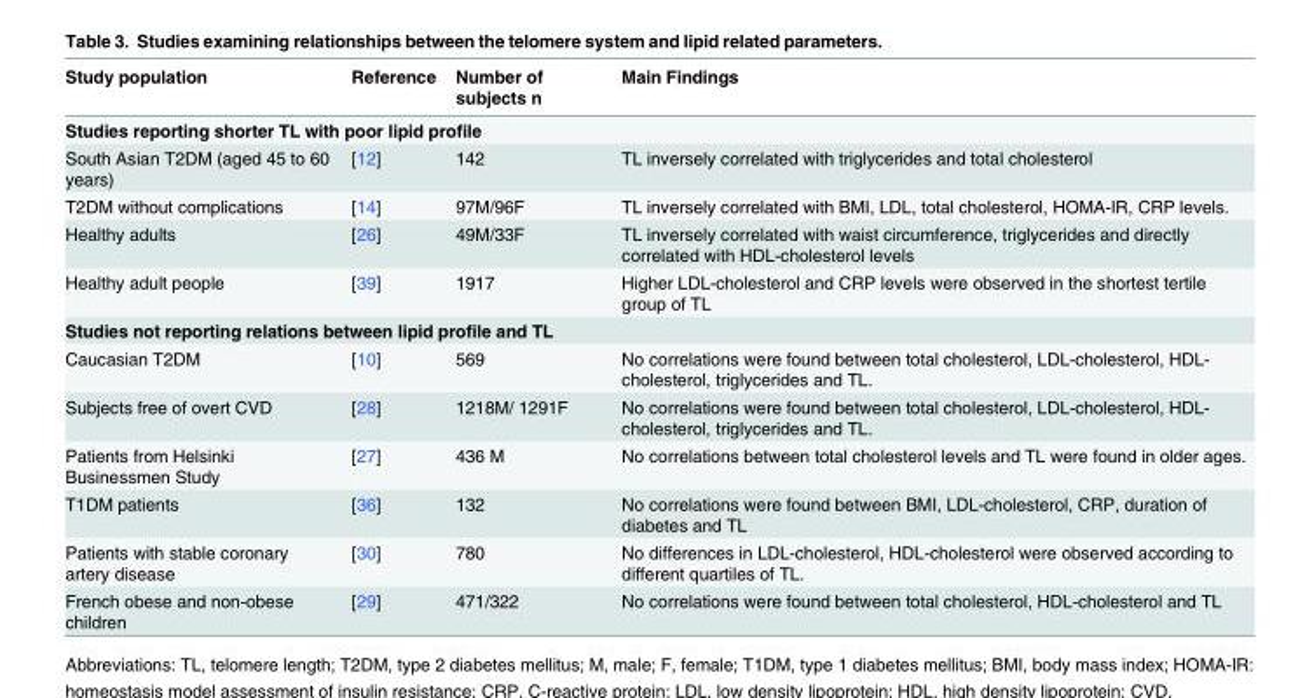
<table><thead><tr><td>Study population</td><td>Reference</td><td>Number of subjects n</td><td>Main Findings</td></tr></thead><tbody><tr><td colspan="4">Studies reporting shorter TL with poor lipid profile</td></tr><tr><td>South Asian T2DM (aged 45 to 60 years)</td><td>[12]</td><td>142</td><td>TL inversely correlated with triglycerides and total cholesterol</td></tr><tr><td>T2DM without complications</td><td>[14]</td><td>97M/96F</td><td>TL inversely correlated with BMI, LDL, total cholesterol, HOMA-IR, CRP levels.</td></tr><tr><td>Healthy adults</td><td>[26]</td><td>49M/33F</td><td>TL inversely correlated with waist circumference, triglycerides and directly correlated with HDL-cholesterol levels</td></tr><tr><td>Healthy adult people</td><td>[39]</td><td>1917</td><td>Higher LDL-cholesterol and CRP levels were observed in the shortest tertile group of TL</td></tr><tr><td colspan="4">Studies not reporting relations between lipid profile and TL</td></tr><tr><td>Caucasian T2DM</td><td>[10]</td><td>569</td><td>No correlations were found between total cholesterol, LDL-cholesterol, HDL- cholesterol, triglycerides and TL.</td></tr><tr><td>Subjects free of overt CVD</td><td>[28]</td><td>1218M/ 1291F</td><td>No correlations were found between total cholesterol, LDL-cholesterol, HDL- cholesterol, triglycerides and TL.</td></tr><tr><td>Patients from Helsinki Businessmen Study</td><td>[27]</td><td>436 M</td><td>No correlations between total cholesterol levels and TL were found in older ages.</td></tr><tr><td>T1DM patients</td><td>[36]</td><td>132</td><td>No correlations were found between BMI, LDL-cholesterol, CRP, duration of diabetes and TL</td></tr><tr><td>Patients with stable coronary artery disease</td><td>[30]</td><td>780</td><td>No differences in LDL-cholesterol, HDL-cholesterol were observed according to different quartiles of TL.</td></tr><tr><td>French obese and non-obese children</td><td>[29]</td><td>471/322</td><td>No correlations were found between total cholesterol, HDL-cholesterol and TL</td></tr></tbody></table>